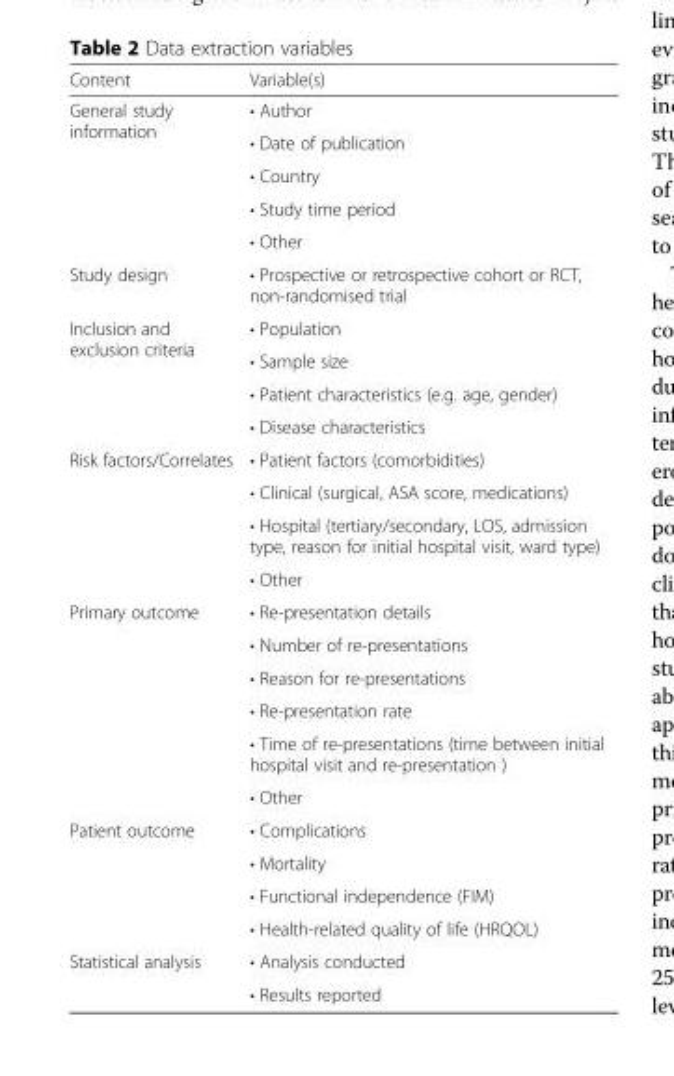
<table><thead><tr><td>Content</td><td>Variable(s)</td></tr></thead><tbody><tr><td rowspan="5">General study information</td><td>• Author</td></tr><tr><td>• Date of publication</td></tr><tr><td>• Country</td></tr><tr><td>• Study time period</td></tr><tr><td>• Other</td></tr><tr><td>Study design</td><td>• Prospective or retrospective cohort or RCT, non-randomised trial</td></tr><tr><td rowspan="4">Inclusion and exclusion criteria</td><td>• Population</td></tr><tr><td>• Sample size</td></tr><tr><td>• Patient characteristics (e.g. age, gender)</td></tr><tr><td>• Disease characteristics</td></tr><tr><td rowspan="4">Risk factors/Correlates</td><td>• Patient factors (comorbidities)</td></tr><tr><td>• Clinical (surgical, ASA score, medications)</td></tr><tr><td>• Hospital (tertiary/secondary, LOS, admission type, reason for initial hospital visit, ward type)</td></tr><tr><td>• Other</td></tr><tr><td rowspan="6">Primary outcome</td><td>• Re-presentation details</td></tr><tr><td>• Number of re-presentations</td></tr><tr><td>• Reason for re-presentations</td></tr><tr><td>• Re-presentation rate</td></tr><tr><td>• Time of re-presentations (time between initial hospital visit and re-presentation )</td></tr><tr><td>• Other</td></tr><tr><td rowspan="4">Patient outcome</td><td>• Complications</td></tr><tr><td>• Mortality</td></tr><tr><td>• Functional independence (FIM)</td></tr><tr><td>• Health-related quality of life (HRQOL)</td></tr><tr><td rowspan="2">Statistical analysis</td><td>• Analysis conducted</td></tr><tr><td>• Results reported</td></tr></tbody></table>